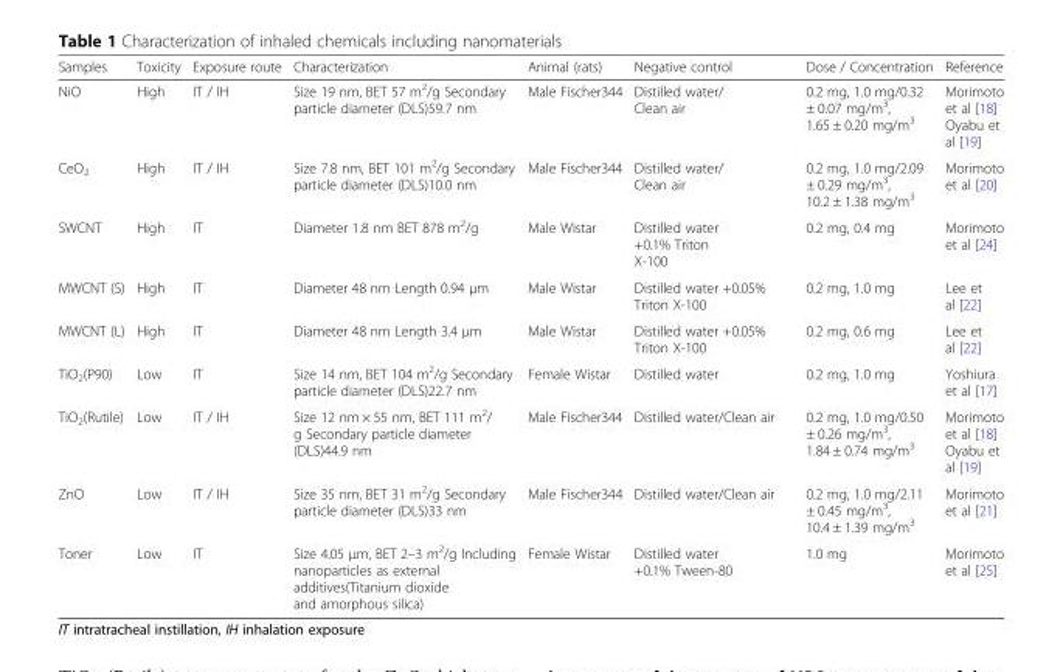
<table><thead><tr><td>Samples</td><td>Toxicity</td><td>Exposure route</td><td>Characterization</td><td>Animal (rats)</td><td>Negative control</td><td>Dose / Concentration</td><td>Reference</td></tr></thead><tbody><tr><td>NiO</td><td>High</td><td>IT / IH</td><td>Size 19 nm, BET 57 m<sup>2</sup>/g Secondary particle diameter (DLS)59.7 nm</td><td>Male Fischer344</td><td>Distilled water/ Clean air</td><td>0.2 mg, 1.0 mg/0.32 ± 0.07 mg/m<sup>3</sup>, 1.65 ± 0.20 mg/m<sup>3</sup></td><td>Morimoto et al [18] Oyabu et al [19]</td></tr><tr><td>CeO<sub>2</sub></td><td>High</td><td>IT / IH</td><td>Size 7.8 nm, BET 101 m<sup>2</sup>/g Secondary particle diameter (DLS)10.0 nm</td><td>Male Fischer344</td><td>Distilled water/ Clean air</td><td>0.2 mg, 1.0 mg/2.09 ± 0.29 mg/m<sup>3</sup>, 10.2 ± 1.38 mg/m<sup>3</sup></td><td>Morimoto et al [20]</td></tr><tr><td>SWCNT</td><td>High</td><td>IT</td><td>Diameter 1.8 nm BET 878 m<sup>2</sup>/g</td><td>Male Wistar</td><td>Distilled water +0.1% Triton X-100</td><td>0.2 mg, 0.4 mg</td><td>Morimoto et al [24]</td></tr><tr><td>MWCNT (S)</td><td>High</td><td>IT</td><td>Diameter 48 nm Length 0.94 μm</td><td>Male Wistar</td><td>Distilled water +0.05% Triton X-100</td><td>0.2 mg, 1.0 mg</td><td>Lee et al [22]</td></tr><tr><td>MWCNT (L)</td><td>High</td><td>IT</td><td>Diameter 48 nm Length 3.4 μm</td><td>Male Wistar</td><td>Distilled water +0.05% Triton X-100</td><td>0.2 mg, 0.6 mg</td><td>Lee et al [22]</td></tr><tr><td>TiO<sub>2</sub>(P90)</td><td>Low</td><td>IT</td><td>Size 14 nm, BET 104 m<sup>2</sup>/g Secondary particle diameter (DLS)22.7 nm</td><td>Female Wistar</td><td>Distilled water</td><td>0.2 mg, 1.0 mg</td><td>Yoshiura et al [17]</td></tr><tr><td>TiO<sub>2</sub>(Rutile)</td><td>Low</td><td>IT / IH</td><td>Size 12 nm × 55 nm, BET 111 m<sup>2</sup>/ g Secondary particle diameter (DLS)44.9 nm</td><td>Male Fischer344</td><td>Distilled water/Clean air</td><td>0.2 mg, 1.0 mg/0.50 ± 0.26 mg/m<sup>3</sup>, 1.84 ± 0.74 mg/m<sup>3</sup></td><td>Morimoto et al [18] Oyabu et al [19]</td></tr><tr><td>ZnO</td><td>Low</td><td>IT / IH</td><td>Size 35 nm, BET 31 m<sup>2</sup>/g Secondary particle diameter (DLS)33 nm</td><td>Male Fischer344</td><td>Distilled water/Clean air</td><td>0.2 mg, 1.0 mg/2.11 ± 0.45 mg/m<sup>3</sup>, 10.4 ± 1.39 mg/m<sup>3</sup></td><td>Morimoto et al [21]</td></tr><tr><td>Toner</td><td>Low</td><td>IT</td><td>Size 4.05 μm, BET 2–3 m<sup>2</sup>/g Including nanoparticles as external additives(Titanium dioxide and amorphous silica)</td><td>Female Wistar</td><td>Distilled water +0.1% Tween-80</td><td>1.0 mg</td><td>Morimoto et al [25]</td></tr></tbody></table>